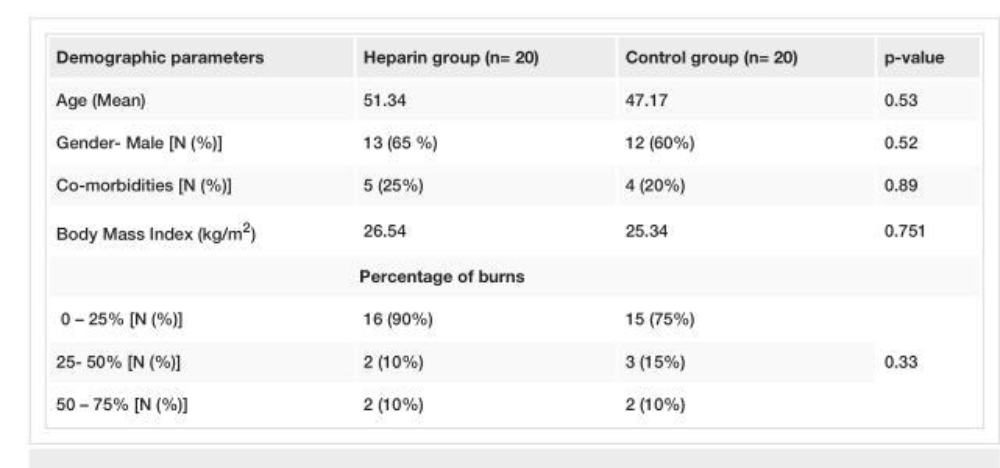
<table><tbody><tr><td>Demographic parameters</td><td>Heparin group (n= 20)</td><td>Control group (n= 20)</td><td>p-value</td></tr><tr><td>Age (Mean)</td><td>51.34</td><td>47.17</td><td>0.53</td></tr><tr><td>Gender- Male [N (%)]</td><td>13 (65 %)</td><td>12 (60%)</td><td>0.52</td></tr><tr><td>Co-morbidities [N (%)]</td><td>5 (25%)</td><td>4 (20%)</td><td>0.89</td></tr><tr><td>Body Mass Index (kg/m<sup>2</sup>)</td><td>26.54</td><td>25.34</td><td>0.751</td></tr><tr><td colspan="4">Percentage of burns</td></tr><tr><td>0 – 25% [N (%)]</td><td>16 (90%)</td><td>15 (75%)</td><td rowspan="3">0.33</td></tr><tr><td>25- 50% [N (%)]</td><td>2 (10%)</td><td>3 (15%)</td></tr><tr><td>50 – 75% [N (%)]</td><td>2 (10%)</td><td>2 (10%)</td></tr></tbody></table>